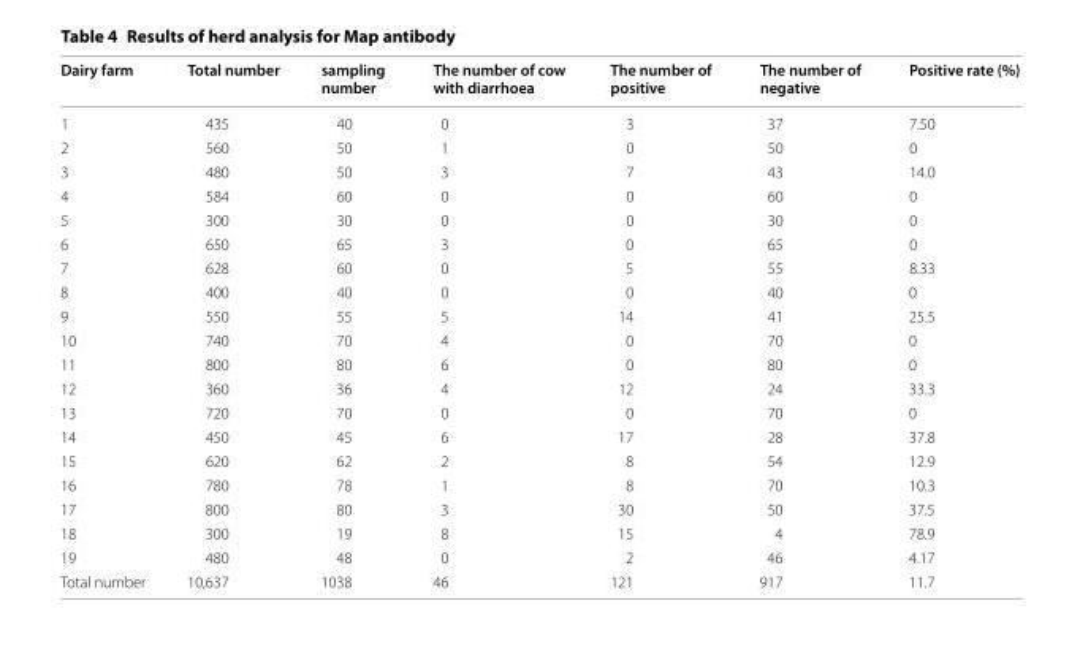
<table><thead><tr><td>Dairy farm</td><td>Total number</td><td>sampling number</td><td>The number of cow with diarrhoea</td><td>The number of positive</td><td>The number of negative</td><td>Positive rate (%)</td></tr></thead><tbody><tr><td>1</td><td>435</td><td>40</td><td>0</td><td>3</td><td>37</td><td>7.50</td></tr><tr><td>2</td><td>560</td><td>50</td><td>1</td><td>0</td><td>50</td><td>0</td></tr><tr><td>3</td><td>480</td><td>50</td><td>3</td><td>7</td><td>43</td><td>14.0</td></tr><tr><td>4</td><td>584</td><td>60</td><td>0</td><td>0</td><td>60</td><td>0</td></tr><tr><td>5</td><td>300</td><td>30</td><td>0</td><td>0</td><td>30</td><td>0</td></tr><tr><td>6</td><td>650</td><td>65</td><td>3</td><td>0</td><td>65</td><td>0</td></tr><tr><td>7</td><td>628</td><td>60</td><td>0</td><td>5</td><td>55</td><td>8.33</td></tr><tr><td>8</td><td>400</td><td>40</td><td>0</td><td>0</td><td>40</td><td>0</td></tr><tr><td>9</td><td>550</td><td>55</td><td>5</td><td>14</td><td>41</td><td>25.5</td></tr><tr><td>10</td><td>740</td><td>70</td><td>4</td><td>0</td><td>70</td><td>0</td></tr><tr><td>11</td><td>800</td><td>80</td><td>6</td><td>0</td><td>80</td><td>0</td></tr><tr><td>12</td><td>360</td><td>36</td><td>4</td><td>12</td><td>24</td><td>33.3</td></tr><tr><td>13</td><td>720</td><td>70</td><td>0</td><td>0</td><td>70</td><td>0</td></tr><tr><td>14</td><td>450</td><td>45</td><td>6</td><td>17</td><td>28</td><td>37.8</td></tr><tr><td>15</td><td>620</td><td>62</td><td>2</td><td>8</td><td>54</td><td>12.9</td></tr><tr><td>16</td><td>780</td><td>78</td><td>1</td><td>8</td><td>70</td><td>10.3</td></tr><tr><td>17</td><td>800</td><td>80</td><td>3</td><td>30</td><td>50</td><td>37.5</td></tr><tr><td>18</td><td>300</td><td>19</td><td>8</td><td>15</td><td>4</td><td>78.9</td></tr><tr><td>19</td><td>480</td><td>48</td><td>0</td><td>2</td><td>46</td><td>4.17</td></tr><tr><td>Total number</td><td>10,637</td><td>1038</td><td>46</td><td>121</td><td>917</td><td>11.7</td></tr></tbody></table>